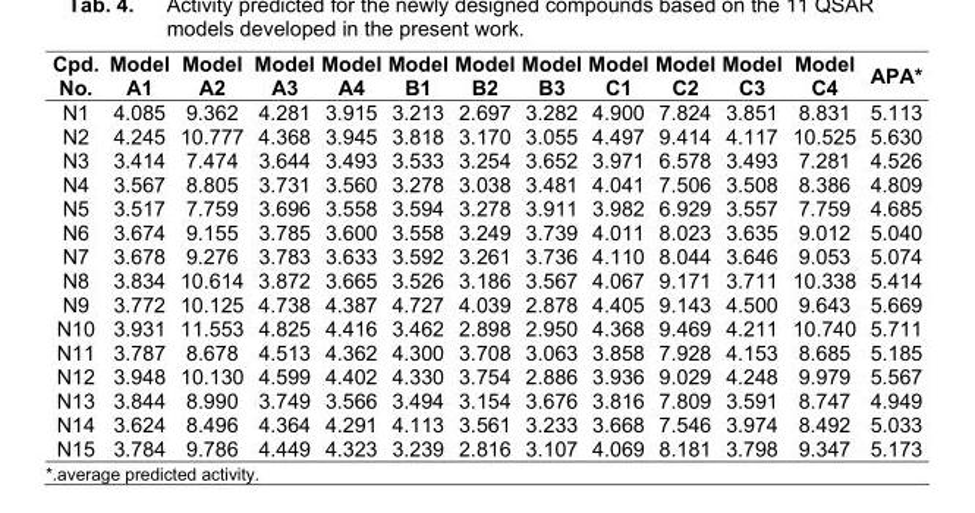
<table><thead><tr><td>Cpd. No.</td><td>Model A1</td><td>Model A2</td><td>Model A3</td><td>Model A4</td><td>Model B1</td><td>Model B2</td><td>Model B3</td><td>Model C1</td><td>Model C2</td><td>Model C3</td><td>Model C4</td><td>APA*</td></tr></thead><tbody><tr><td>N1</td><td>4.085</td><td>9.362</td><td>4.281</td><td>3.915</td><td>3.213</td><td>2.697</td><td>3.282</td><td>4.900</td><td>7.824</td><td>3.851</td><td>8.831</td><td>5.113</td></tr><tr><td>N2</td><td>4.245</td><td>10.777</td><td>4.368</td><td>3.945</td><td>3.818</td><td>3.170</td><td>3.055</td><td>4.497</td><td>9.414</td><td>4.117</td><td>10.525</td><td>5.630</td></tr><tr><td>N3</td><td>3.414</td><td>7.474</td><td>3.644</td><td>3.493</td><td>3.533</td><td>3.254</td><td>3.652</td><td>3.971</td><td>6.578</td><td>3.493</td><td>7.281</td><td>4.526</td></tr><tr><td>N4</td><td>3.567</td><td>8.805</td><td>3.731</td><td>3.560</td><td>3.278</td><td>3.038</td><td>3.481</td><td>4.041</td><td>7.506</td><td>3.508</td><td>8.386</td><td>4.809</td></tr><tr><td>N5</td><td>3.517</td><td>7.759</td><td>3.696</td><td>3.558</td><td>3.594</td><td>3.278</td><td>3.911</td><td>3.982</td><td>6.929</td><td>3.557</td><td>7.759</td><td>4.685</td></tr><tr><td>N6</td><td>3.674</td><td>9.155</td><td>3.785</td><td>3.600</td><td>3.558</td><td>3.249</td><td>3.739</td><td>4.011</td><td>8.023</td><td>3.635</td><td>9.012</td><td>5.040</td></tr><tr><td>N7</td><td>3.678</td><td>9.276</td><td>3.783</td><td>3.633</td><td>3.592</td><td>3.261</td><td>3.736</td><td>4.110</td><td>8.044</td><td>3.646</td><td>9.053</td><td>5.074</td></tr><tr><td>N8</td><td>3.834</td><td>10.614</td><td>3.872</td><td>3.665</td><td>3.526</td><td>3.186</td><td>3.567</td><td>4.067</td><td>9.171</td><td>3.711</td><td>10.338</td><td>5.414</td></tr><tr><td>N9</td><td>3.772</td><td>10.125</td><td>4.738</td><td>4.387</td><td>4.727</td><td>4.039</td><td>2.878</td><td>4.405</td><td>9.143</td><td>4.500</td><td>9.643</td><td>5.669</td></tr><tr><td>N10</td><td>3.931</td><td>11.553</td><td>4.825</td><td>4.416</td><td>3.462</td><td>2.898</td><td>2.950</td><td>4.368</td><td>9.469</td><td>4.211</td><td>10.740</td><td>5.711</td></tr><tr><td>N11</td><td>3.787</td><td>8.678</td><td>4.513</td><td>4.362</td><td>4.300</td><td>3.708</td><td>3.063</td><td>3.858</td><td>7.928</td><td>4.153</td><td>8.685</td><td>5.185</td></tr><tr><td>N12</td><td>3.948</td><td>10.130</td><td>4.599</td><td>4.402</td><td>4.330</td><td>3.754</td><td>2.886</td><td>3.936</td><td>9.029</td><td>4.248</td><td>9.979</td><td>5.567</td></tr><tr><td>N13</td><td>3.844</td><td>8.990</td><td>3.749</td><td>3.566</td><td>3.494</td><td>3.154</td><td>3.676</td><td>3.816</td><td>7.809</td><td>3.591</td><td>8.747</td><td>4.949</td></tr><tr><td>N14</td><td>3.624</td><td>8.496</td><td>4.364</td><td>4.291</td><td>4.113</td><td>3.561</td><td>3.233</td><td>3.668</td><td>7.546</td><td>3.974</td><td>8.492</td><td>5.033</td></tr><tr><td>N15</td><td>3.784</td><td>9.786</td><td>4.449</td><td>4.323</td><td>3.239</td><td>2.816</td><td>3.107</td><td>4.069</td><td>8.181</td><td>3.798</td><td>9.347</td><td>5.173</td></tr></tbody></table>